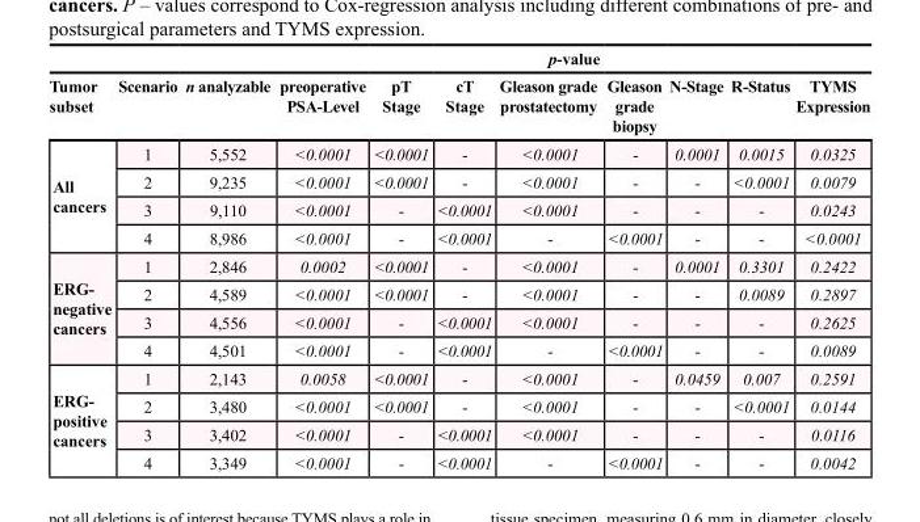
<table><thead><tr><td colspan="11">p-value</td></tr><tr><td>Tumor subset</td><td>Scenario</td><td>n analyzable</td><td>preoperative PSA-Level</td><td>pT Stage</td><td>cT Stage</td><td>Gleason grade prostatectomy</td><td>Gleason grade biopsy</td><td>N-Stage</td><td>R-Status</td><td>TYMS Expression</td></tr></thead><tbody><tr><td rowspan="4">All cancers</td><td>1</td><td>5,552</td><td>&lt;0.0001</td><td>&lt;0.0001</td><td>-</td><td>&lt;0.0001</td><td>-</td><td>0.0001</td><td>0.0015</td><td>0.0325</td></tr><tr><td>2</td><td>9,235</td><td>&lt;0.0001</td><td>&lt;0.0001</td><td>-</td><td>&lt;0.0001</td><td>-</td><td>-</td><td>&lt;0.0001</td><td>0.0079</td></tr><tr><td>3</td><td>9,110</td><td>&lt;0.0001</td><td>-</td><td>&lt;0.0001</td><td>&lt;0.0001</td><td>-</td><td>-</td><td>-</td><td>0.0243</td></tr><tr><td>4</td><td>8,986</td><td>&lt;0.0001</td><td>-</td><td>&lt;0.0001</td><td>-</td><td>&lt;0.0001</td><td>-</td><td>-</td><td>&lt;0.0001</td></tr><tr><td rowspan="4">ERG- negative cancers</td><td>1</td><td>2,846</td><td>0.0002</td><td>&lt;0.0001</td><td>-</td><td>&lt;0.0001</td><td>-</td><td>0.0001</td><td>0.3301</td><td>0.2422</td></tr><tr><td>2</td><td>4,589</td><td>&lt;0.0001</td><td>&lt;0.0001</td><td>-</td><td>&lt;0.0001</td><td>-</td><td>-</td><td>0.0089</td><td>0.2897</td></tr><tr><td>3</td><td>4,556</td><td>&lt;0.0001</td><td>-</td><td>&lt;0.0001</td><td>&lt;0.0001</td><td>-</td><td>-</td><td>-</td><td>0.2625</td></tr><tr><td>4</td><td>4,501</td><td>&lt;0.0001</td><td>-</td><td>&lt;0.0001</td><td>-</td><td>&lt;0.0001</td><td>-</td><td>-</td><td>0.0089</td></tr><tr><td rowspan="4">ERG- positive cancers</td><td>1</td><td>2,143</td><td>0.0058</td><td>&lt;0.0001</td><td>-</td><td>&lt;0.0001</td><td>-</td><td>0.0459</td><td>0.007</td><td>0.2591</td></tr><tr><td>2</td><td>3,480</td><td>&lt;0.0001</td><td>&lt;0.0001</td><td>-</td><td>&lt;0.0001</td><td>-</td><td>-</td><td>&lt;0.0001</td><td>0.0144</td></tr><tr><td>3</td><td>3,402</td><td>&lt;0.0001</td><td>-</td><td>&lt;0.0001</td><td>&lt;0.0001</td><td>-</td><td>-</td><td>-</td><td>0.0116</td></tr><tr><td>4</td><td>3,349</td><td>&lt;0.0001</td><td>-</td><td>&lt;0.0001</td><td>-</td><td>&lt;0.0001</td><td>-</td><td>-</td><td>0.0042</td></tr></tbody></table>